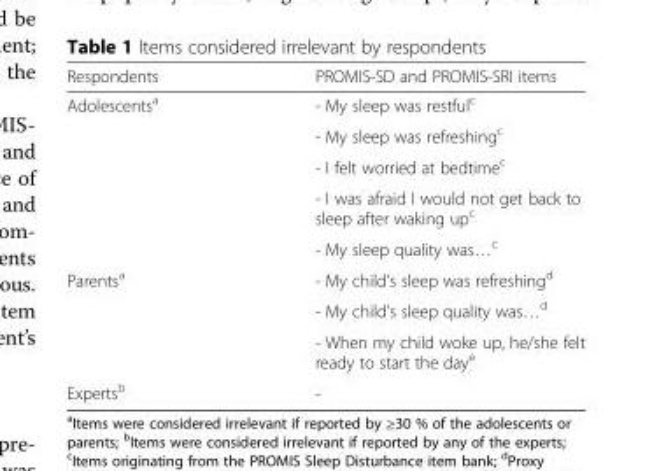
<table><thead><tr><td>Respondents</td><td>PROMIS-SD and PROMIS-SRI items</td></tr></thead><tbody><tr><td rowspan="5">Adolescents<sup>a</sup></td><td>- My sleep was restful<sup>c</sup></td></tr><tr><td>- My sleep was refreshing<sup>c</sup></td></tr><tr><td>- I felt worried at bedtime<sup>c</sup></td></tr><tr><td>- I was afraid I would not get back to sleep after waking up<sup>c</sup></td></tr><tr><td>- My sleep quality was…<sup>c</sup></td></tr><tr><td rowspan="3">Parents<sup>a</sup></td><td>- My child’s sleep was refreshing<sup>d</sup></td></tr><tr><td>- My child’s sleep quality was…<sup>d</sup></td></tr><tr><td>- When my child woke up, he/she felt ready to start the day<sup>e</sup></td></tr><tr><td>Experts<sup>b</sup></td><td>-</td></tr></tbody></table>